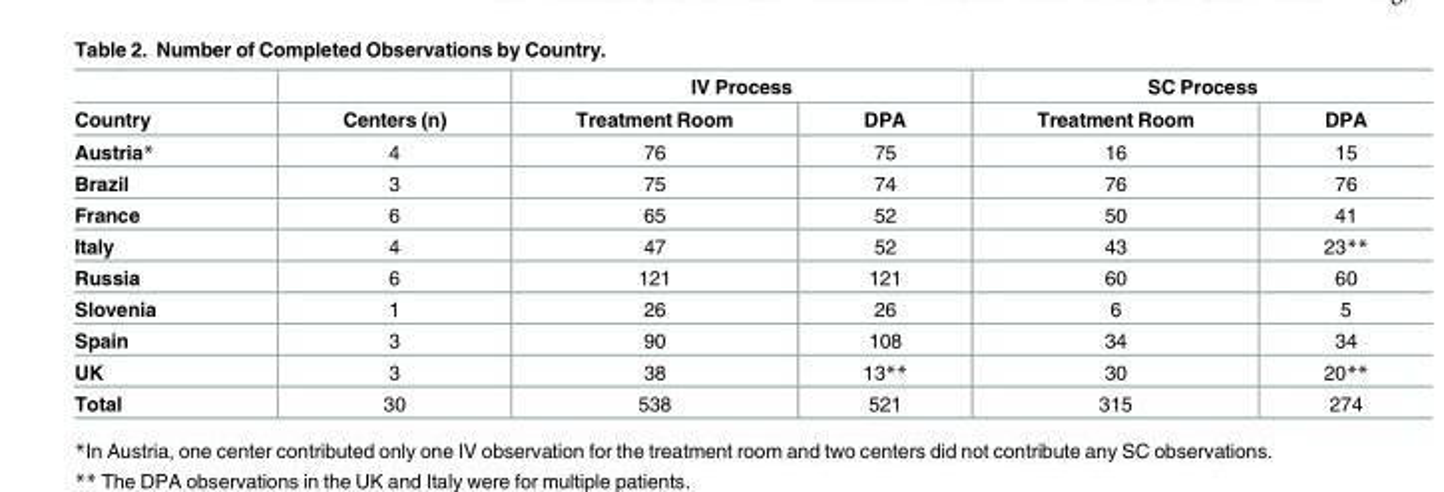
<table><thead><tr><td rowspan="2">Country</td><td rowspan="2">Centers (n)</td><td colspan="2">IV Process</td><td colspan="2">SC Process</td></tr><tr><td>Treatment Room</td><td>DPA</td><td>Treatment Room</td><td>DPA</td></tr></thead><tbody><tr><td>Austria*</td><td>4</td><td>76</td><td>75</td><td>16</td><td>15</td></tr><tr><td>Brazil</td><td>3</td><td>75</td><td>74</td><td>76</td><td>76</td></tr><tr><td>France</td><td>6</td><td>65</td><td>52</td><td>50</td><td>41</td></tr><tr><td>Italy</td><td>4</td><td>47</td><td>52</td><td>43</td><td>23**</td></tr><tr><td>Russia</td><td>6</td><td>121</td><td>121</td><td>60</td><td>60</td></tr><tr><td>Slovenia</td><td>1</td><td>26</td><td>26</td><td>6</td><td>5</td></tr><tr><td>Spain</td><td>3</td><td>90</td><td>108</td><td>34</td><td>34</td></tr><tr><td>UK</td><td>3</td><td>38</td><td>13**</td><td>30</td><td>20**</td></tr><tr><td>Total</td><td>30</td><td>538</td><td>521</td><td>315</td><td>274</td></tr></tbody></table>